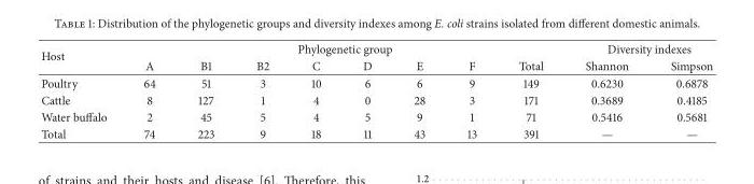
<table><thead><tr><td rowspan="2">Host</td><td colspan="8">Phylogenetic group</td><td colspan="2">Diversity indexes</td></tr><tr><td>A</td><td>B1</td><td>B2</td><td>C</td><td>D</td><td>E</td><td>F</td><td>Total</td><td>Shannon</td><td>Simpson</td></tr></thead><tbody><tr><td>Poultry</td><td>64</td><td>51</td><td>3</td><td>10</td><td>6</td><td>6</td><td>9</td><td>149</td><td>0.6230</td><td>0.6878</td></tr><tr><td>Cattle</td><td>8</td><td>127</td><td>1</td><td>4</td><td>0</td><td>28</td><td>3</td><td>171</td><td>0.3689</td><td>0.4185</td></tr><tr><td>Water buffalo</td><td>2</td><td>45</td><td>5</td><td>4</td><td>5</td><td>9</td><td>1</td><td>71</td><td>0.5416</td><td>0.5681</td></tr><tr><td>Total</td><td>74</td><td>223</td><td>9</td><td>18</td><td>11</td><td>43</td><td>13</td><td>391</td><td>—</td><td>—</td></tr></tbody></table>